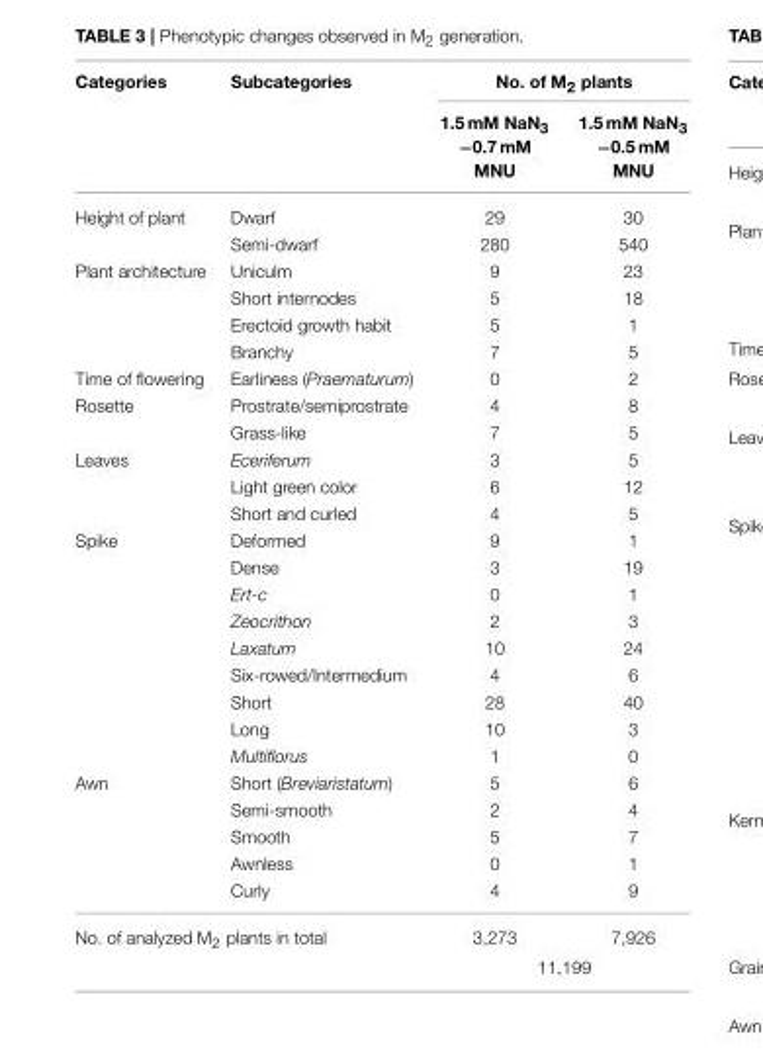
<table><thead><tr><td rowspan="2">Categories</td><td rowspan="2">Subcategories</td><td colspan="2">No. of M<sub>2</sub> plants</td></tr><tr><td>1.5 mM NaN<sub>3</sub> −0.7 mM MNU</td><td>1.5 mM NaN<sub>3</sub> −0.5 mM MNU</td></tr></thead><tbody><tr><td rowspan="2">Height of plant</td><td>Dwarf</td><td>29</td><td>30</td></tr><tr><td>Semi-dwarf</td><td>280</td><td>540</td></tr><tr><td rowspan="4">Plant architecture</td><td>Uniculm</td><td>9</td><td>23</td></tr><tr><td>Short internodes</td><td>5</td><td>18</td></tr><tr><td>Erectoid growth habit</td><td>5</td><td>1</td></tr><tr><td>Branchy</td><td>7</td><td>5</td></tr><tr><td>Time of flowering</td><td>Earliness (Praematurum)</td><td>0</td><td>2</td></tr><tr><td rowspan="2">Rosette</td><td>Prostrate/semiprostrate</td><td>4</td><td>8</td></tr><tr><td>Grass-like</td><td>7</td><td>5</td></tr><tr><td rowspan="3">Leaves</td><td>Eceriferum</td><td>3</td><td>5</td></tr><tr><td>Light green color</td><td>6</td><td>12</td></tr><tr><td>Short and curled</td><td>4</td><td>5</td></tr><tr><td rowspan="9">Spike</td><td>Deformed</td><td>9</td><td>1</td></tr><tr><td>Dense</td><td>3</td><td>19</td></tr><tr><td>Ert-c</td><td>0</td><td>1</td></tr><tr><td>Zeocrithon</td><td>2</td><td>3</td></tr><tr><td>Laxatum</td><td>10</td><td>24</td></tr><tr><td>Six-rowed/Intermedium</td><td>4</td><td>6</td></tr><tr><td>Short</td><td>28</td><td>40</td></tr><tr><td>Long</td><td>10</td><td>3</td></tr><tr><td>Multiflorus</td><td>1</td><td>0</td></tr><tr><td rowspan="5">Awn</td><td>Short (Breviaristatum)</td><td>5</td><td>6</td></tr><tr><td>Semi-smooth</td><td>2</td><td>4</td></tr><tr><td>Smooth</td><td>5</td><td>7</td></tr><tr><td>Awnless</td><td>0</td><td>1</td></tr><tr><td>Curly</td><td>4</td><td>9</td></tr><tr><td colspan="2">No. of analyzed M<sub>2</sub> plants in total</td><td>3,273</td><td>7,926</td></tr><tr><td></td><td></td><td colspan="2">11,199</td></tr></tbody></table>